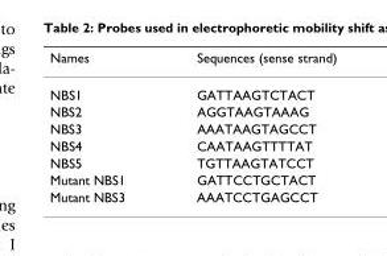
<table><thead><tr><td>Names</td><td>Sequences (sense strand)</td></tr></thead><tbody><tr><td>NBS1</td><td>GATTAAGTCTACT</td></tr><tr><td>NBS2</td><td>AGGTAAGTAAAG</td></tr><tr><td>NBS3</td><td>AAATAAGTAGCCT</td></tr><tr><td>NBS4</td><td>CAATAAGTTTTAT</td></tr><tr><td>NBS5</td><td>TGTTAAGTATCCT</td></tr><tr><td>Mutant NBS1</td><td>GATTCCTGCTACT</td></tr><tr><td>Mutant NBS3</td><td>AAATCCTGAGCCT</td></tr></tbody></table>